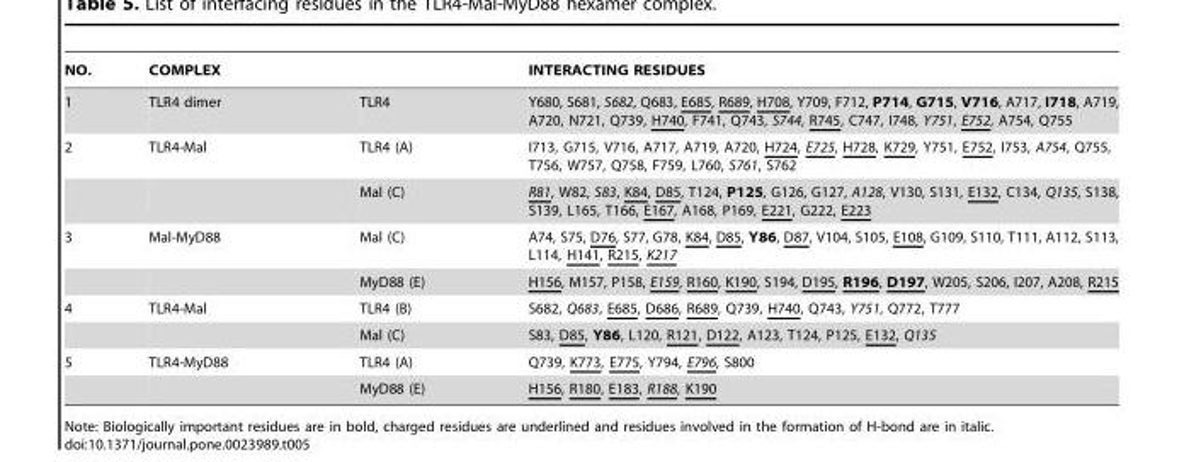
<table><thead><tr><td rowspan="2">NO. 1</td><td colspan="2">COMPLEX</td><td rowspan="2">INTERACTING RESIDUES Y680, S681, S682, Q683, E685, R689, H708, Y709, F712, P714, G715, V716, A717, I718, A719, A720, N721, Q739, H740, F741, Q743, S744, R745, C747, I748, Y751, E752, A754, Q755</td></tr><tr><td>TLR4 dimer</td><td>TLR4</td></tr></thead><tbody><tr><td rowspan="2">2</td><td>TLR4-Mal</td><td>TLR4 (A)</td><td>I713, G715, V716, A717, A719, A720, H724, E725, H728, K729, Y751, E752, I753, A754, Q755, T756, W757, Q758, F759, L760, S761, S762</td></tr><tr><td></td><td>Mal (C)</td><td>R81, W82, S83, K84, D85, T124, P125, G126, G127, A128, V130, S131, E132, C134, Q135, S138, S139, L165, T166, E167, A168, P169, E221, G222, E223</td></tr><tr><td rowspan="2">3</td><td>Mal-MyD88</td><td>Mal (C)</td><td>A74, S75, D76, S77, G78, K84, D85, Y86, D87, V104, S105, E108, G109, S110, T111, A112, S113, L114, H141, R215, K217</td></tr><tr><td></td><td>MyD88 (E)</td><td>H156, M157, P158, E159, R160, K190, S194, D195, R196, D197, W205, S206, I207, A208, R215</td></tr><tr><td rowspan="2">4</td><td>TLR4-Mal</td><td>TLR4 (B)</td><td>S682, Q683, E685, D686, R689, Q739, H740, Q743, Y751, Q772, T777</td></tr><tr><td></td><td>Mal (C)</td><td>S83, D85, Y86, L120, R121, D122, A123, T124, P125, E132, Q135</td></tr><tr><td rowspan="2">5</td><td>TLR4-MyD88</td><td>TLR4 (A)</td><td>Q739, K773, E775, Y794, E796, S800</td></tr><tr><td></td><td>MyD88 (E)</td><td>H156, R180, E183, R188, K190</td></tr></tbody></table>